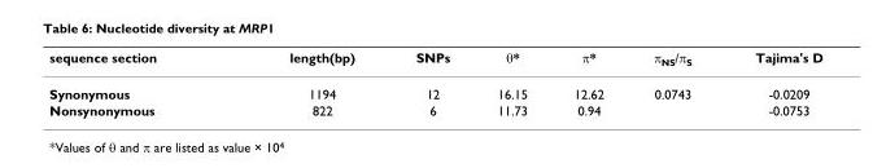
<table><thead><tr><td>sequence section</td><td>length(bp)</td><td>SNPs</td><td>θ*</td><td>π*</td><td>πNS/πS</td><td>Tajima&#x27;s D</td></tr></thead><tbody><tr><td>Synonymous</td><td>1194</td><td>12</td><td>16.15</td><td>12.62</td><td>0.0743</td><td>-0.0209</td></tr><tr><td>Nonsynonymous</td><td>822</td><td>6</td><td>11.73</td><td>0.94</td><td></td><td>-0.0753</td></tr></tbody></table>